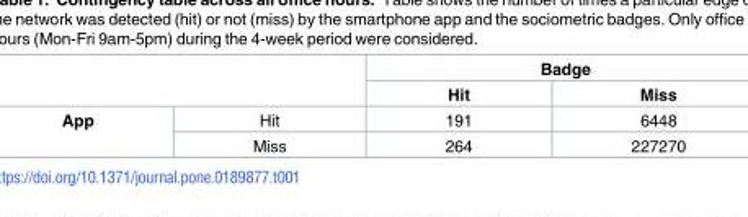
<table><thead><tr><td rowspan="2"></td><td rowspan="2"></td><td colspan="2">Badge</td></tr><tr><td>Hit</td><td>Miss</td></tr></thead><tbody><tr><td rowspan="2">App</td><td>Hit</td><td>191</td><td>6448</td></tr><tr><td>Miss</td><td>264</td><td>227270</td></tr></tbody></table>